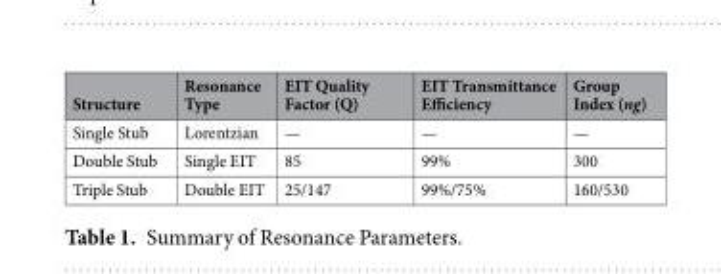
<table><thead><tr><td>Structure</td><td>Resonance Type</td><td>EIT Quality Factor (Q)</td><td>EIT Transmittance Efficiency</td><td>Group Index (ng)</td></tr></thead><tbody><tr><td>Single Stub</td><td>Lorentzian</td><td>—</td><td>—</td><td>—</td></tr><tr><td>Double Stub</td><td>Single EIT</td><td>85</td><td>99%</td><td>300</td></tr><tr><td>Triple Stub</td><td>Double EIT</td><td>25/147</td><td>99%/75%</td><td>160/530</td></tr></tbody></table>